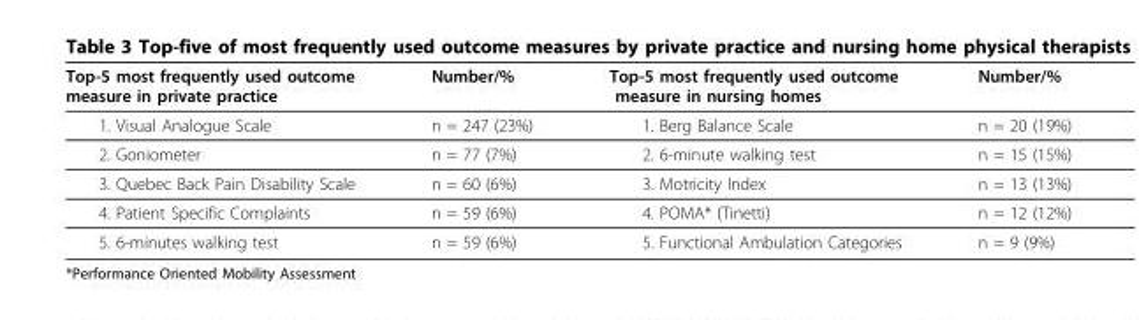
<table><thead><tr><td>Top-5 most frequently used outcome measure in private practice</td><td>Number/%</td><td>Top-5 most frequently used outcome measure in nursing homes</td><td>Number/%</td></tr></thead><tbody><tr><td>1. Visual Analogue Scale</td><td>n = 247 (23%)</td><td>1. Berg Balance Scale</td><td>n = 20 (19%)</td></tr><tr><td>2. Goniometer</td><td>n = 77 (7%)</td><td>2. 6-minute walking test</td><td>n = 15 (15%)</td></tr><tr><td>3. Quebec Back Pain Disability Scale</td><td>n = 60 (6%)</td><td>3. Motricity Index</td><td>n = 13 (13%)</td></tr><tr><td>4. Patient Specific Complaints</td><td>n = 59 (6%)</td><td>4. POMA* (Tinetti)</td><td>n = 12 (12%)</td></tr><tr><td>5. 6-minutes walking test</td><td>n = 59 (6%)</td><td>5. Functional Ambulation Categories</td><td>n = 9 (9%)</td></tr></tbody></table>